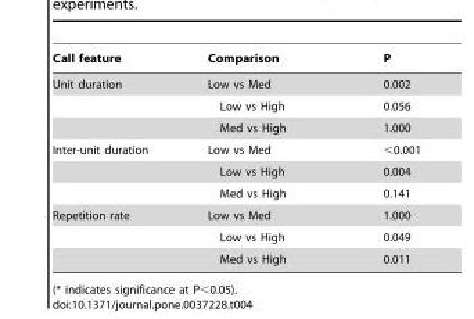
<table><thead><tr><td>Call feature</td><td>Comparison</td><td>P</td></tr></thead><tbody><tr><td rowspan="3">Unit duration</td><td>Low vs Med</td><td>0.002</td></tr><tr><td>Low vs High</td><td>0.056</td></tr><tr><td>Med vs High</td><td>1.000</td></tr><tr><td rowspan="3">Inter-unit duration</td><td>Low vs Med</td><td>&lt;0.001</td></tr><tr><td>Low vs High</td><td>0.004</td></tr><tr><td>Med vs High</td><td>0.141</td></tr><tr><td rowspan="3">Repetition rate</td><td>Low vs Med</td><td>1.000</td></tr><tr><td>Low vs High</td><td>0.049</td></tr><tr><td>Med vs High</td><td>0.011</td></tr></tbody></table>